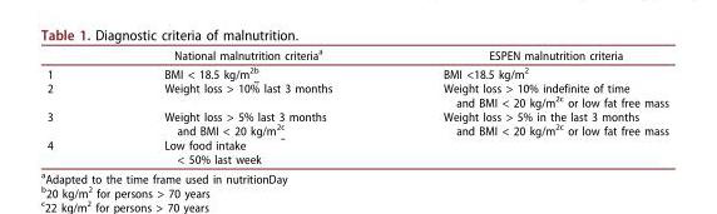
<table><thead><tr><td></td><td>National malnutrition criteria<sup>a</sup></td><td>ESPEN malnutrition criteria</td></tr></thead><tbody><tr><td>1</td><td>BMI &lt; 18.5 kg/m<sup>2b</sup></td><td>BMI &lt;18.5 kg/m<sup>2</sup></td></tr><tr><td>2</td><td>Weight loss &gt; 10% last 3 months</td><td>Weight loss &gt; 10% indefinite of time and BMI &lt; 20 kg/m<sup>2c</sup> or low fat free mass</td></tr><tr><td>3</td><td>Weight loss &gt; 5% last 3 months and BMI &lt; 20 kg/m<sup>2c</sup></td><td>Weight loss &gt; 5% in the last 3 months and BMI &lt; 20 kg/m<sup>2c</sup> or low fat free mass</td></tr><tr><td>4</td><td>Low food intake &lt; 50% last week</td><td></td></tr></tbody></table>